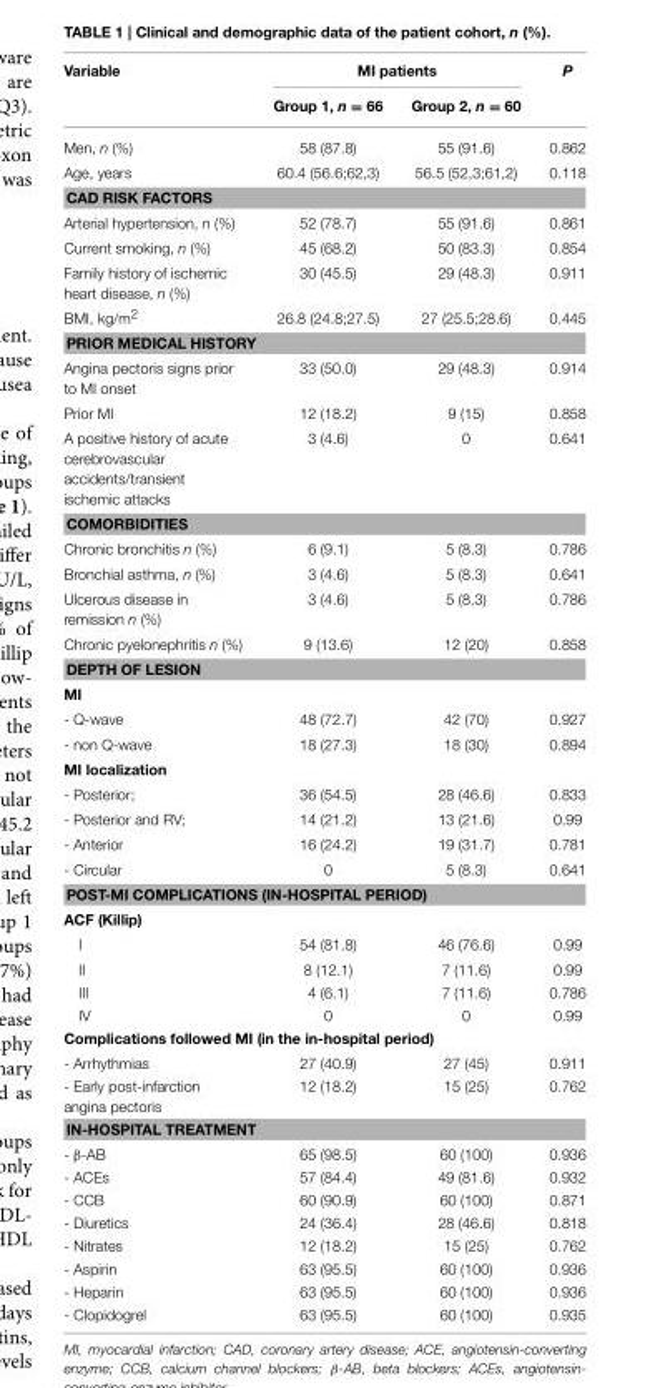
<table><thead><tr><td rowspan="2">Variable</td><td colspan="2">MI patients</td><td rowspan="2">P</td></tr><tr><td>Group 1, n = 66</td><td>Group 2, n = 60</td></tr></thead><tbody><tr><td>Men, n (%)</td><td>58 (87.8)</td><td>55 (91.6)</td><td>0.862</td></tr><tr><td>Age, years</td><td>60.4 (56.6;62,3)</td><td>56.5 (52,3;61,2)</td><td>0.118</td></tr><tr><td colspan="4">CAD RISK FACTORS</td></tr><tr><td>Arterial hypertension, n (%)</td><td>52 (78.7)</td><td>55 (91.6)</td><td>0.861</td></tr><tr><td>Current smoking, n (%)</td><td>45 (68.2)</td><td>50 (83.3)</td><td>0.854</td></tr><tr><td>Family history of ischemic heart disease, n (%)</td><td>30 (45.5)</td><td>29 (48.3)</td><td>0.911</td></tr><tr><td>BMI, kg/m<sup>2</sup></td><td>26.8 (24.8;27.5)</td><td>27 (25.5;28.6)</td><td>0.445</td></tr><tr><td colspan="4">PRIOR MEDICAL HISTORY</td></tr><tr><td>Angina pectoris signs prior to MI onset</td><td>33 (50.0)</td><td>29 (48.3)</td><td>0.914</td></tr><tr><td>Prior MI</td><td>12 (18.2)</td><td>9 (15)</td><td>0.858</td></tr><tr><td>A positive history of acute cerebrovascular accidents/transient ischemic attacks</td><td>3 (4.6)</td><td>0</td><td>0.641</td></tr><tr><td colspan="4">COMORBIDITIES</td></tr><tr><td>Chronic bronchitis n (%)</td><td>6 (9.1)</td><td>5 (8.3)</td><td>0.786</td></tr><tr><td>Bronchial asthma, n (%)</td><td>3 (4.6)</td><td>5 (8.3)</td><td>0.641</td></tr><tr><td>Ulcerous disease in remission n (%)</td><td>3 (4.6)</td><td>5 (8.3)</td><td>0.786</td></tr><tr><td>Chronic pyelonephritis n (%)</td><td>9 (13.6)</td><td>12 (20)</td><td>0.858</td></tr><tr><td colspan="4">DEPTH OF LESION</td></tr><tr><td colspan="4">MI</td></tr><tr><td>- Q-wave</td><td>48 (72.7)</td><td>42 (70)</td><td>0.927</td></tr><tr><td>- non Q-wave</td><td>18 (27.3)</td><td>18 (30)</td><td>0.894</td></tr><tr><td colspan="4">MI localization</td></tr><tr><td>- Posterior;</td><td>36 (54.5)</td><td>28 (46.6)</td><td>0.833</td></tr><tr><td>- Posterior and RV;</td><td>14 (21.2)</td><td>13 (21.6)</td><td>0.99</td></tr><tr><td>- Anterior</td><td>16 (24.2)</td><td>19 (31.7)</td><td>0.781</td></tr><tr><td>- Circular</td><td>0</td><td>5 (8.3)</td><td>0.641</td></tr><tr><td colspan="4">POST-MI COMPLICATIONS (IN-HOSPITAL PERIOD)</td></tr><tr><td colspan="4">ACF (Killip)</td></tr><tr><td>I</td><td>54 (81.8)</td><td>46 (76.6)</td><td>0.99</td></tr><tr><td>II</td><td>8 (12.1)</td><td>7 (11.6)</td><td>0.99</td></tr><tr><td>III</td><td>4 (6.1)</td><td>7 (11.6)</td><td>0.786</td></tr><tr><td>IV</td><td>0</td><td>0</td><td>0.99</td></tr><tr><td colspan="4">Complications followed MI (in the in-hospital period)</td></tr><tr><td>- Arrhythmias</td><td>27 (40.9)</td><td>27 (45)</td><td>0.911</td></tr><tr><td>- Early post-infarction angina pectoris</td><td>12 (18.2)</td><td>15 (25)</td><td>0.762</td></tr><tr><td colspan="4">IN-HOSPITAL TREATMENT</td></tr><tr><td>- β-AB</td><td>65 (98.5)</td><td>60 (100)</td><td>0.936</td></tr><tr><td>- ACEs</td><td>57 (84.4)</td><td>49 (81.6)</td><td>0.932</td></tr><tr><td>- CCB</td><td>60 (90.9)</td><td>60 (100)</td><td>0.871</td></tr><tr><td>- Diuretics</td><td>24 (36.4)</td><td>28 (46.6)</td><td>0.818</td></tr><tr><td>- Nitrates</td><td>12 (18.2)</td><td>15 (25)</td><td>0.762</td></tr><tr><td>- Aspirin</td><td>63 (95.5)</td><td>60 (100)</td><td>0.936</td></tr><tr><td>- Heparin</td><td>63 (95.5)</td><td>60 (100)</td><td>0.936</td></tr><tr><td>- Clopidogrel</td><td>63 (95.5)</td><td>60 (100)</td><td>0.935</td></tr></tbody></table>